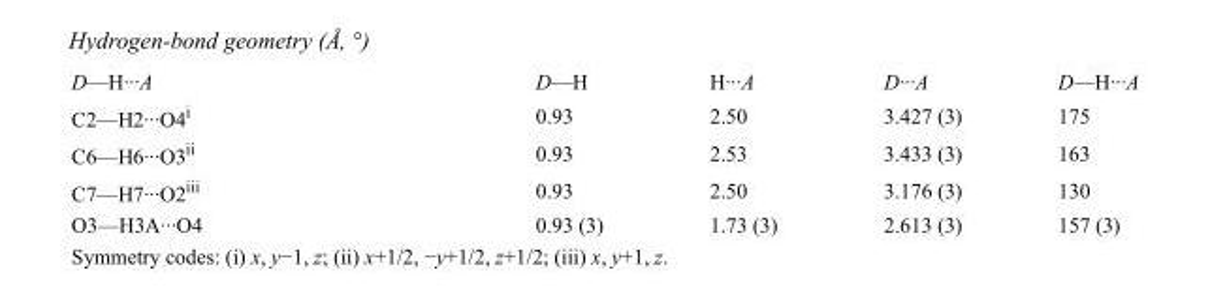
<table><tbody><tr><td>D—H···A</td><td>D—H</td><td>H···A</td><td>D···A</td><td>D—H···A</td></tr><tr><td>C2—H2···O4<sup>i</sup></td><td>0.93</td><td>2.50</td><td>3.427 (3)</td><td>175</td></tr><tr><td>C6—H6···O3<sup>ii</sup></td><td>0.93</td><td>2.53</td><td>3.433 (3)</td><td>163</td></tr><tr><td>C7—H7···O2<sup>iii</sup></td><td>0.93</td><td>2.50</td><td>3.176 (3)</td><td>130</td></tr><tr><td>O3—H3A···O4</td><td>0.93 (3)</td><td>1.73 (3)</td><td>2.613 (3)</td><td>157 (3)</td></tr></tbody></table>